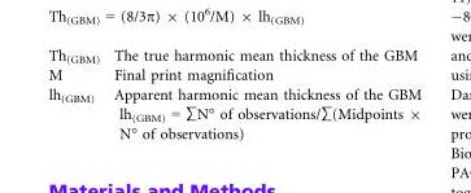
<table><tbody><tr><td>Th<sub>(GBM)</sub></td><td>The true harmonic mean thickness of the GBM</td></tr><tr><td>M</td><td>Final print magnification</td></tr><tr><td>lh<sub>(GBM)</sub></td><td>Apparent harmonic mean thickness of the GBM lh<sub>(GBM)</sub> = ∑N° of observations/∑(Midpoints × N° of observations)</td></tr></tbody></table>